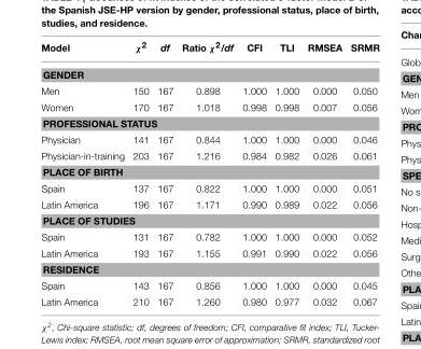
<table><thead><tr><td>Model</td><td>χ<sup>2</sup></td><td>df</td><td>Ratio χ<sup>2</sup>/df</td><td>CFI</td><td>TLI</td><td>RMSEA</td><td>SRMR</td></tr></thead><tbody><tr><td colspan="8">GENDER</td></tr><tr><td>Men</td><td>150</td><td>167</td><td>0.898</td><td>1.000</td><td>1.000</td><td>0.000</td><td>0.050</td></tr><tr><td>Women</td><td>170</td><td>167</td><td>1.018</td><td>0.998</td><td>0.998</td><td>0.007</td><td>0.056</td></tr><tr><td colspan="8">PROFESSIONAL STATUS</td></tr><tr><td>Physician</td><td>141</td><td>167</td><td>0.844</td><td>1.000</td><td>1.000</td><td>0.000</td><td>0.046</td></tr><tr><td>Physician-in-training</td><td>203</td><td>167</td><td>1.216</td><td>0.984</td><td>0.982</td><td>0.026</td><td>0.061</td></tr><tr><td colspan="8">PLACE OF BIRTH</td></tr><tr><td>Spain</td><td>137</td><td>167</td><td>0.822</td><td>1.000</td><td>1.000</td><td>0.000</td><td>0.051</td></tr><tr><td>Latin America</td><td>196</td><td>167</td><td>1.171</td><td>0.990</td><td>0.989</td><td>0.022</td><td>0.056</td></tr><tr><td colspan="8">PLACE OF STUDIES</td></tr><tr><td>Spain</td><td>131</td><td>167</td><td>0.782</td><td>1.000</td><td>1.000</td><td>0.000</td><td>0.052</td></tr><tr><td>Latin America</td><td>193</td><td>167</td><td>1.155</td><td>0.991</td><td>0.990</td><td>0.022</td><td>0.056</td></tr><tr><td colspan="8">RESIDENCE</td></tr><tr><td>Spain</td><td>143</td><td>167</td><td>0.856</td><td>1.000</td><td>1.000</td><td>0.000</td><td>0.045</td></tr><tr><td>Latin America</td><td>210</td><td>167</td><td>1.260</td><td>0.980</td><td>0.977</td><td>0.032</td><td>0.067</td></tr></tbody></table>